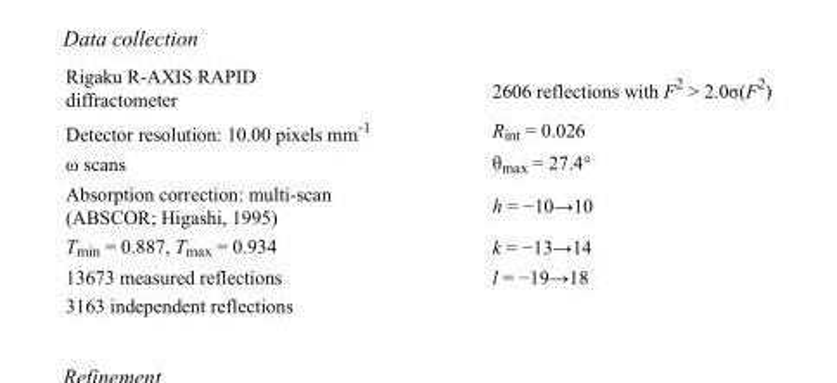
<table><tbody><tr><td>Rigaku R-AXIS RAPID diffractometer</td><td>2606 reflections with F<sup>2</sup> &gt; 2.0σ(F<sup>2</sup>)</td></tr><tr><td>Detector resolution: 10.00 pixels mm<sup>-1</sup></td><td>R<sub>int</sub> = 0.026</td></tr><tr><td>ω scans</td><td>θ<sub>max</sub> = 27.4°</td></tr><tr><td>Absorption correction: multi-scan (ABSCOR; Higashi, 1995)</td><td>h = −10→10</td></tr><tr><td>T<sub>min</sub> = 0.887, T<sub>max</sub> = 0.934</td><td>k = −13→14</td></tr><tr><td>13673 measured reflections</td><td>l = −19→18</td></tr><tr><td>3163 independent reflections</td><td></td></tr></tbody></table>